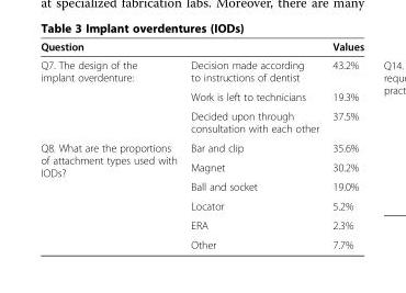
<table><thead><tr><td>Question</td><td></td><td>Values</td></tr></thead><tbody><tr><td rowspan="3">Q7. The design of the implant overdenture:</td><td>Decision made according to instructions of dentist</td><td>43.2%</td></tr><tr><td>Work is left to technicians</td><td>19.3%</td></tr><tr><td>Decided upon through consultation with each other</td><td>37.5%</td></tr><tr><td rowspan="6">Q8. What are the proportions of attachment types used with IODs?</td><td>Bar and clip</td><td>35.6%</td></tr><tr><td>Magnet</td><td>30.2%</td></tr><tr><td>Ball and socket</td><td>19.0%</td></tr><tr><td>Locator</td><td>5.2%</td></tr><tr><td>ERA</td><td>2.3%</td></tr><tr><td>Other</td><td>7.7%</td></tr></tbody></table>